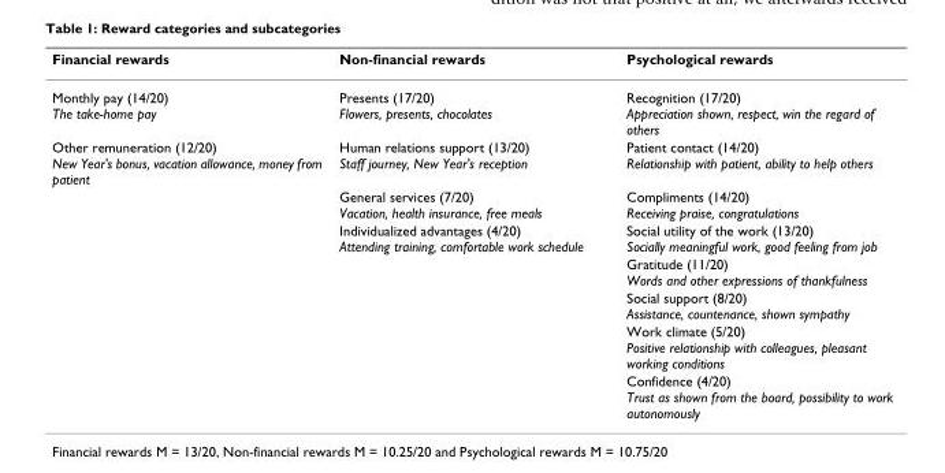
<table><thead><tr><td>Financial rewards</td><td>Non-financial rewards</td><td>Psychological rewards</td></tr></thead><tbody><tr><td>Monthly pay (14/20) The take-home pay</td><td>Presents (17/20) Flowers, presents, chocolates</td><td>Recognition (17/20) Appreciation shown, respect, win the regard of others</td></tr><tr><td rowspan="7">Other remuneration (12/20) New Year&#x27;s bonus, vacation allowance, money from patient</td><td>Human relations support (13/20) Staff journey, New Year&#x27;s reception</td><td>Patient contact (14/20) Relationship with patient, ability to help others</td></tr><tr><td>General services (7/20) Vacation, health insurance, free meals</td><td>Compliments (14/20) Receiving praise, congratulations</td></tr><tr><td>Individualized advantages (4/20) Attending training, comfortable work schedule</td><td>Social utility of the work (13/20) Socially meaningful work, good feeling from job</td></tr><tr><td></td><td>Gratitude (11/20) Words and other expressions of thankfulness</td></tr><tr><td></td><td>Social support (8/20) Assistance, countenance, shown sympathy</td></tr><tr><td></td><td>Work climate (5/20) Positive relationship with colleagues, pleasant working conditions</td></tr><tr><td></td><td>Confidence (4/20) Trust as shown from the board, possibility to work autonomously</td></tr></tbody></table>